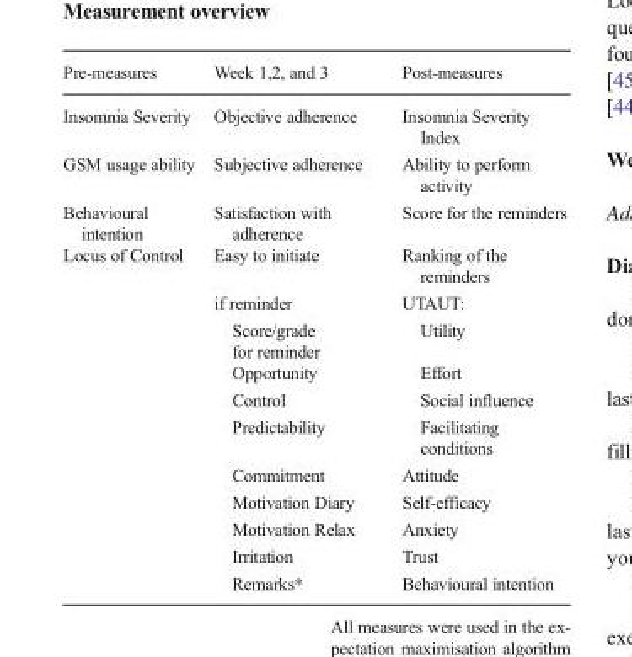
<table><thead><tr><td>Pre-measures</td><td>Week 1,2, and 3</td><td>Post-measures</td></tr></thead><tbody><tr><td>Insomnia Severity</td><td>Objective adherence</td><td>Insomnia Severity Index</td></tr><tr><td>GSM usage ability</td><td>Subjective adherence</td><td>Ability to perform activity</td></tr><tr><td>Behavioural intention</td><td>Satisfaction with adherence</td><td>Score for the reminders</td></tr><tr><td rowspan="11">Locus of Control</td><td>Easy to initiate</td><td>Ranking of the reminders</td></tr><tr><td>if reminder</td><td>UTAUT:</td></tr><tr><td>Score/grade for reminder</td><td>Utility</td></tr><tr><td>Opportunity</td><td>Effort</td></tr><tr><td>Control</td><td>Social influence</td></tr><tr><td>Predictability</td><td>Facilitating conditions</td></tr><tr><td>Commitment</td><td>Attitude</td></tr><tr><td>Motivation Diary</td><td>Self-efficacy</td></tr><tr><td>Motivation Relax</td><td>Anxiety</td></tr><tr><td>Irritation</td><td>Trust</td></tr><tr><td>Remarks*</td><td>Behavioural intention</td></tr></tbody></table>